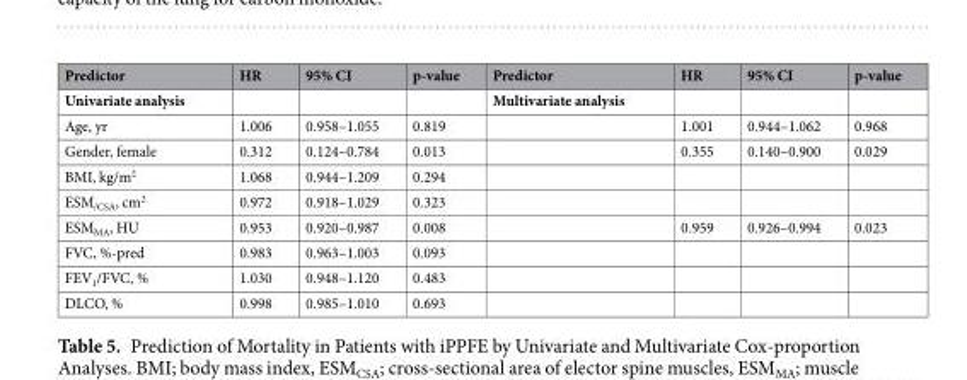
<table><thead><tr><td>Predictor</td><td>HR</td><td>95% CI</td><td>p-value</td><td>Predictor</td><td>HR</td><td>95% CI</td><td>p-value</td></tr></thead><tbody><tr><td>Univariate analysis</td><td></td><td></td><td></td><td>Multivariate analysis</td><td></td><td></td><td></td></tr><tr><td>Age, yr</td><td>1.006</td><td>0.958–1.055</td><td>0.819</td><td></td><td>1.001</td><td>0.944–1.062</td><td>0.968</td></tr><tr><td>Gender, female</td><td>0.312</td><td>0.124–0.784</td><td>0.013</td><td></td><td>0.355</td><td>0.140–0.900</td><td>0.029</td></tr><tr><td>BMI, kg/m<sup>2</sup></td><td>1.068</td><td>0.944–1.209</td><td>0.294</td><td></td><td></td><td></td><td></td></tr><tr><td>ESM<sub>/CSA</sub>, cm<sup>2</sup></td><td>0.972</td><td>0.918–1.029</td><td>0.323</td><td></td><td></td><td></td><td></td></tr><tr><td>ESM<sub>MA</sub>, HU</td><td>0.953</td><td>0.920–0.987</td><td>0.008</td><td></td><td>0.959</td><td>0.926–0.994</td><td>0.023</td></tr><tr><td>FVC, %-pred</td><td>0.983</td><td>0.963–1.003</td><td>0.093</td><td></td><td></td><td></td><td></td></tr><tr><td>FEV<sub>1</sub>/FVC, %</td><td>1.030</td><td>0.948–1.120</td><td>0.483</td><td></td><td></td><td></td><td></td></tr><tr><td>DLCO, %</td><td>0.998</td><td>0.985–1.010</td><td>0.693</td><td></td><td></td><td></td><td></td></tr></tbody></table>